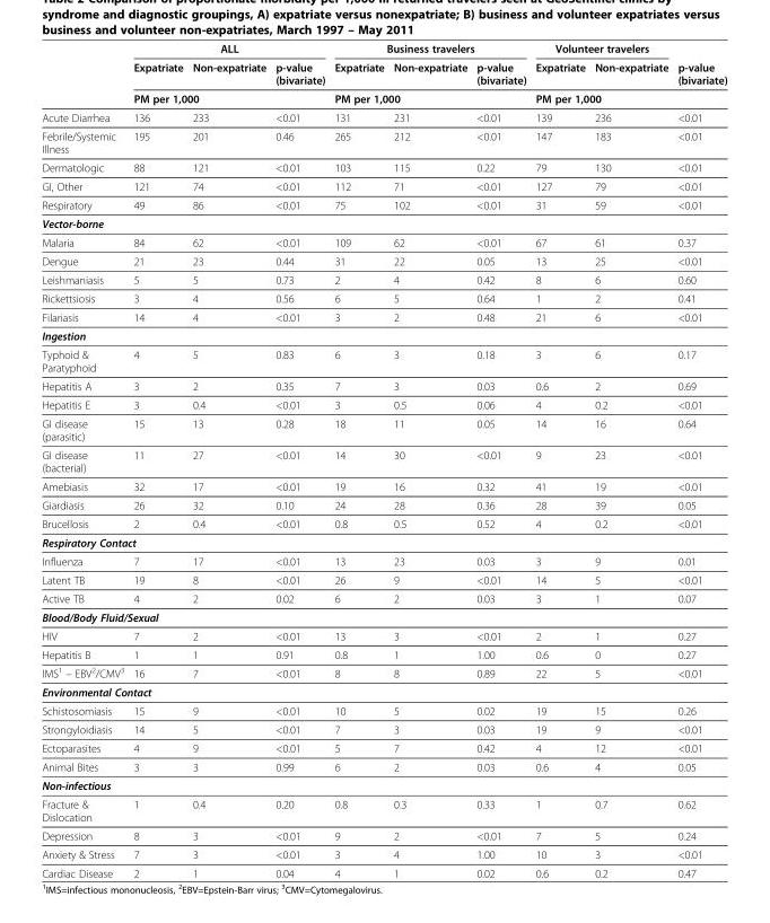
<table><thead><tr><td rowspan="2"></td><td rowspan="2">Expatriate</td><td rowspan="2">ALL Non-expatriate</td><td rowspan="2">p-value (bivariate)</td><td colspan="3">Business travelers</td><td colspan="2">Volunteer travelers</td><td rowspan="2">p-value (bivariate)</td></tr><tr><td>Expatriate</td><td>Non-expatriate</td><td>p-value (bivariate)</td><td>Expatriate</td><td>Non-expatriate</td></tr></thead><tbody><tr><td></td><td colspan="2">PM per 1,000</td><td></td><td colspan="2">PM per 1,000</td><td></td><td colspan="2">PM per 1,000</td><td></td></tr><tr><td>Acute Diarrhea</td><td>136</td><td>233</td><td>&lt;0.01</td><td>131</td><td>231</td><td>&lt;0.01</td><td>139</td><td>236</td><td>&lt;0.01</td></tr><tr><td>Febrile/Systemic Illness</td><td>195</td><td>201</td><td>0.46</td><td>265</td><td>212</td><td>&lt;0.01</td><td>147</td><td>183</td><td>&lt;0.01</td></tr><tr><td>Dermatologic</td><td>88</td><td>121</td><td>&lt;0.01</td><td>103</td><td>115</td><td>0.22</td><td>79</td><td>130</td><td>&lt;0.01</td></tr><tr><td>GI, Other</td><td>121</td><td>74</td><td>&lt;0.01</td><td>112</td><td>71</td><td>&lt;0.01</td><td>127</td><td>79</td><td>&lt;0.01</td></tr><tr><td>Respiratory</td><td>49</td><td>86</td><td>&lt;0.01</td><td>75</td><td>102</td><td>&lt;0.01</td><td>31</td><td>59</td><td>&lt;0.01</td></tr><tr><td colspan="10">Vector-borne</td></tr><tr><td>Malaria</td><td>84</td><td>62</td><td>&lt;0.01</td><td>109</td><td>62</td><td>&lt;0.01</td><td>67</td><td>61</td><td>0.37</td></tr><tr><td>Dengue</td><td>21</td><td>23</td><td>0.44</td><td>31</td><td>22</td><td>0.05</td><td>13</td><td>25</td><td>&lt;0.01</td></tr><tr><td>Leishmaniasis</td><td>5</td><td>5</td><td>0.73</td><td>2</td><td>4</td><td>0.42</td><td>8</td><td>6</td><td>0.60</td></tr><tr><td>Rickettsiosis</td><td>3</td><td>4</td><td>0.56</td><td>6</td><td>5</td><td>0.64</td><td>1</td><td>2</td><td>0.41</td></tr><tr><td>Filariasis</td><td>14</td><td>4</td><td>&lt;0.01</td><td>3</td><td>2</td><td>0.48</td><td>21</td><td>6</td><td>&lt;0.01</td></tr><tr><td colspan="10">Ingestion</td></tr><tr><td>Typhoid &amp; Paratyphoid</td><td>4</td><td>5</td><td>0.83</td><td>6</td><td>3</td><td>0.18</td><td>3</td><td>6</td><td>0.17</td></tr><tr><td>Hepatitis A</td><td>3</td><td>2</td><td>0.35</td><td>7</td><td>3</td><td>0.03</td><td>0.6</td><td>2</td><td>0.69</td></tr><tr><td>Hepatitis E</td><td>3</td><td>0.4</td><td>&lt;0.01</td><td>3</td><td>0.5</td><td>0.06</td><td>4</td><td>0.2</td><td>&lt;0.01</td></tr><tr><td>GI disease (parasitic)</td><td>15</td><td>13</td><td>0.28</td><td>18</td><td>11</td><td>0.05</td><td>14</td><td>16</td><td>0.64</td></tr><tr><td>GI disease (bacterial)</td><td>11</td><td>27</td><td>&lt;0.01</td><td>14</td><td>30</td><td>&lt;0.01</td><td>9</td><td>23</td><td>&lt;0.01</td></tr><tr><td>Amebiasis</td><td>32</td><td>17</td><td>&lt;0.01</td><td>19</td><td>16</td><td>0.32</td><td>41</td><td>19</td><td>&lt;0.01</td></tr><tr><td>Giardiasis</td><td>26</td><td>32</td><td>0.10</td><td>24</td><td>28</td><td>0.36</td><td>28</td><td>39</td><td>0.05</td></tr><tr><td>Brucellosis</td><td>2</td><td>0.4</td><td>&lt;0.01</td><td>0.8</td><td>0.5</td><td>0.52</td><td>4</td><td>0.2</td><td>&lt;0.01</td></tr><tr><td colspan="10">Respiratory Contact</td></tr><tr><td>Influenza</td><td>7</td><td>17</td><td>&lt;0.01</td><td>13</td><td>23</td><td>0.03</td><td>3</td><td>9</td><td>0.01</td></tr><tr><td>Latent TB</td><td>19</td><td>8</td><td>&lt;0.01</td><td>26</td><td>9</td><td>&lt;0.01</td><td>14</td><td>5</td><td>&lt;0.01</td></tr><tr><td>Active TB</td><td>4</td><td>2</td><td>0.02</td><td>6</td><td>2</td><td>0.03</td><td>3</td><td>1</td><td>0.07</td></tr><tr><td colspan="10">Blood/Body Fluid/Sexual</td></tr><tr><td>HIV</td><td>7</td><td>2</td><td>&lt;0.01</td><td>13</td><td>3</td><td>&lt;0.01</td><td>2</td><td>1</td><td>0.27</td></tr><tr><td>Hepatitis B</td><td>1</td><td>1</td><td>0.91</td><td>0.8</td><td>1</td><td>1.00</td><td>0.6</td><td>0</td><td>0.27</td></tr><tr><td>IMS<sup>1</sup> – EBV<sup>2</sup>/CMV<sup>3</sup></td><td>16</td><td>7</td><td>&lt;0.01</td><td>8</td><td>8</td><td>0.89</td><td>22</td><td>5</td><td>&lt;0.01</td></tr><tr><td colspan="10">Environmental Contact</td></tr><tr><td>Schistosomiasis</td><td>15</td><td>9</td><td>&lt;0.01</td><td>10</td><td>5</td><td>0.02</td><td>19</td><td>15</td><td>0.26</td></tr><tr><td>Strongyloidiasis</td><td>14</td><td>5</td><td>&lt;0.01</td><td>7</td><td>3</td><td>0.03</td><td>19</td><td>9</td><td>&lt;0.01</td></tr><tr><td>Ectoparasites</td><td>4</td><td>9</td><td>&lt;0.01</td><td>5</td><td>7</td><td>0.42</td><td>4</td><td>12</td><td>&lt;0.01</td></tr><tr><td>Animal Bites</td><td>3</td><td>3</td><td>0.99</td><td>6</td><td>2</td><td>0.03</td><td>0.6</td><td>4</td><td>0.05</td></tr><tr><td colspan="10">Non-infectious</td></tr><tr><td>Fracture &amp; Dislocation</td><td>1</td><td>0.4</td><td>0.20</td><td>0.8</td><td>0.3</td><td>0.33</td><td>1</td><td>0.7</td><td>0.62</td></tr><tr><td>Depression</td><td>8</td><td>3</td><td>&lt;0.01</td><td>9</td><td>2</td><td>&lt;0.01</td><td>7</td><td>5</td><td>0.24</td></tr><tr><td>Anxiety &amp; Stress</td><td>7</td><td>3</td><td>&lt;0.01</td><td>3</td><td>4</td><td>1.00</td><td>10</td><td>3</td><td>&lt;0.01</td></tr><tr><td>Cardiac Disease</td><td>2</td><td>1</td><td>0.04</td><td>4</td><td>1</td><td>0.02</td><td>0.6</td><td>0.2</td><td>0.47</td></tr></tbody></table>